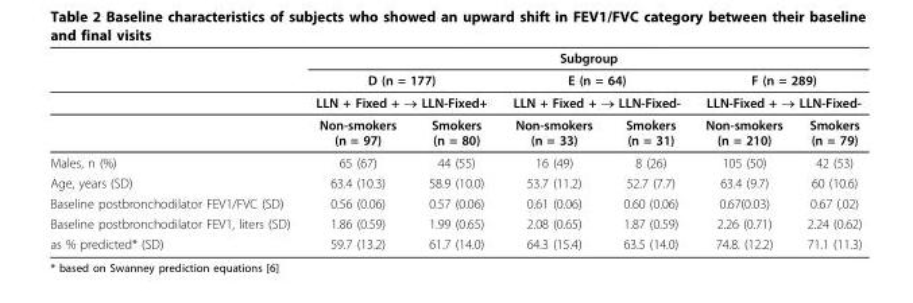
<table><thead><tr><td rowspan="4"></td><td colspan="6">Subgroup</td></tr><tr><td rowspan="2" colspan="2">D (n = 177) LLN + Fixed + → LLN-Fixed+</td><td rowspan="2" colspan="2">E (n = 64) LLN + Fixed + → LLN-Fixed-</td><td rowspan="2" colspan="2">F (n = 289) LLN-Fixed + → LLN-Fixed-</td></tr><tr></tr><tr><td>Non-smokers (n = 97)</td><td>Smokers (n = 80)</td><td>Non-smokers (n = 33)</td><td>Smokers (n = 31)</td><td>Non-smokers (n = 210)</td><td>Smokers (n = 79)</td></tr></thead><tbody><tr><td>Males, n (%)</td><td>65 (67)</td><td>44 (55)</td><td>16 (49)</td><td>8 (26)</td><td>105 (50)</td><td>42 (53)</td></tr><tr><td>Age, years (SD)</td><td>63.4 (10.3)</td><td>58.9 (10.0)</td><td>53.7 (11.2)</td><td>52.7 (7.7)</td><td>63.4 (9.7)</td><td>60 (10.6)</td></tr><tr><td>Baseline postbronchodilator FEV1/FVC (SD)</td><td>0.56 (0.06)</td><td>0.57 (0.06)</td><td>0.61 (0.06)</td><td>0.60 (0.06)</td><td>0.67(0.03)</td><td>0.67 (.02)</td></tr><tr><td>Baseline postbronchodilator FEV1, liters (SD)</td><td>1.86 (0.59)</td><td>1.99 (0.65)</td><td>2.08 (0.65)</td><td>1.87 (0.59)</td><td>2.26 (0.71)</td><td>2.24 (0.62)</td></tr><tr><td>as % predicted* (SD)</td><td>59.7 (13.2)</td><td>61.7 (14.0)</td><td>64.3 (15.4)</td><td>63.5 (14.0)</td><td>74.8. (12.2)</td><td>71.1 (11.3)</td></tr></tbody></table>